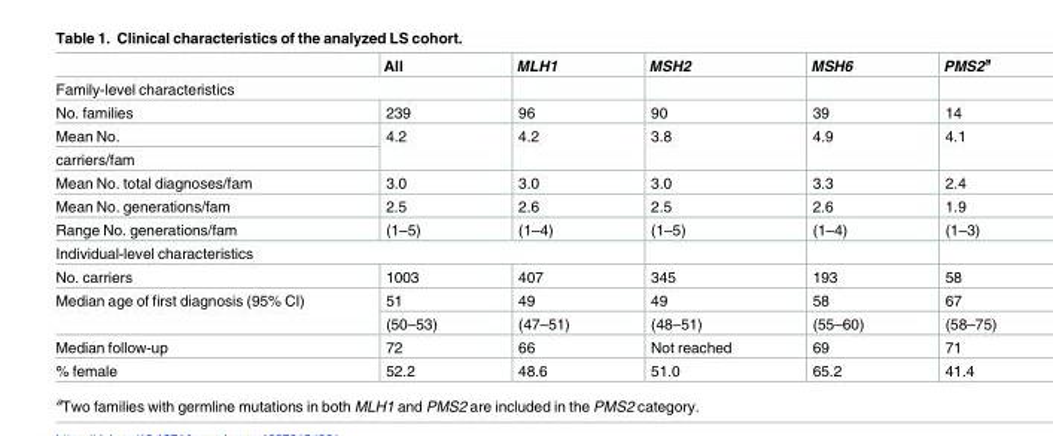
<table><thead><tr><td></td><td>All</td><td>MLH1</td><td>MSH2</td><td>MSH6</td><td>PMS2<sup>a</sup></td></tr></thead><tbody><tr><td colspan="6">Family-level characteristics</td></tr><tr><td>No. families</td><td>239</td><td>96</td><td>90</td><td>39</td><td>14</td></tr><tr><td>Mean No.</td><td rowspan="2">4.2</td><td rowspan="2">4.2</td><td rowspan="2">3.8</td><td rowspan="2">4.9</td><td rowspan="2">4.1</td></tr><tr><td>carriers/fam</td></tr><tr><td>Mean No. total diagnoses/fam</td><td>3.0</td><td>3.0</td><td>3.0</td><td>3.3</td><td>2.4</td></tr><tr><td>Mean No. generations/fam</td><td>2.5</td><td>2.6</td><td>2.5</td><td>2.6</td><td>1.9</td></tr><tr><td>Range No. generations/fam</td><td>(1–5)</td><td>(1–4)</td><td>(1–5)</td><td>(1–4)</td><td>(1–3)</td></tr><tr><td colspan="6">Individual-level characteristics</td></tr><tr><td>No. carriers</td><td>1003</td><td>407</td><td>345</td><td>193</td><td>58</td></tr><tr><td rowspan="2">Median age of first diagnosis (95% CI)</td><td>51</td><td>49</td><td>49</td><td>58</td><td>67</td></tr><tr><td>(50–53)</td><td>(47–51)</td><td>(48–51)</td><td>(55–60)</td><td>(58–75)</td></tr><tr><td>Median follow-up</td><td>72</td><td>66</td><td>Not reached</td><td>69</td><td>71</td></tr><tr><td>% female</td><td>52.2</td><td>48.6</td><td>51.0</td><td>65.2</td><td>41.4</td></tr></tbody></table>